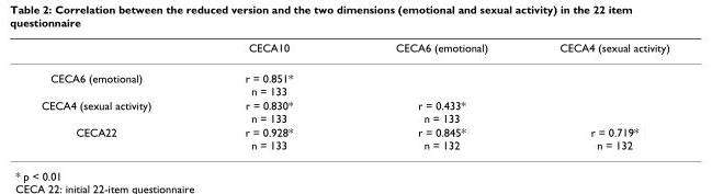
<table><thead><tr><td></td><td>CECA10</td><td>CECA6 (emotional)</td><td>CECA4 (sexual activity)</td></tr></thead><tbody><tr><td>CECA6 (emotional)</td><td>r = 0.851* n = 133</td><td></td><td></td></tr><tr><td>CECA4 (sexual activity)</td><td>r = 0.830* n = 133</td><td>r = 0.433* n = 133</td><td></td></tr><tr><td>CECA22</td><td>r = 0.928* n = 133</td><td>r = 0.845* n = 132</td><td>r = 0.719* n = 132</td></tr></tbody></table>